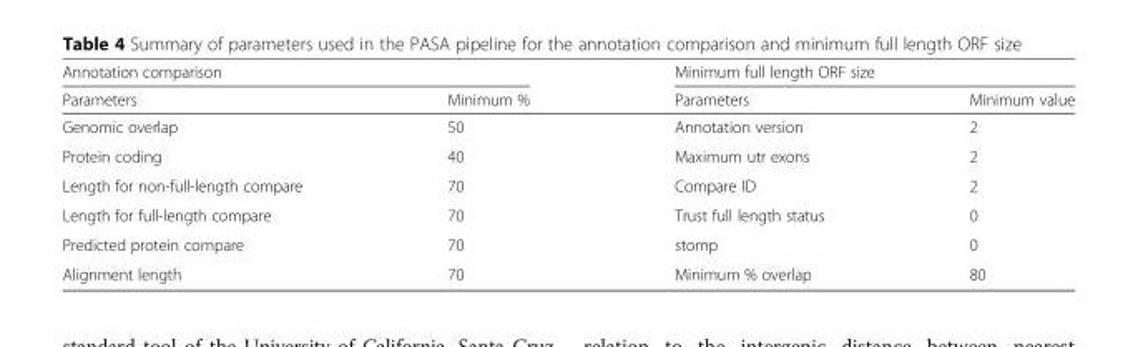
<table><thead><tr><td colspan="2">Annotation comparison</td><td colspan="2">Minimum full length ORF size</td></tr><tr><td>Parameters</td><td>Minimum %</td><td>Parameters</td><td>Minimum value</td></tr></thead><tbody><tr><td>Genomic overlap</td><td>50</td><td>Annotation version</td><td>2</td></tr><tr><td>Protein coding</td><td>40</td><td>Maximum utr exons</td><td>2</td></tr><tr><td>Length for non-full-length compare</td><td>70</td><td>Compare ID</td><td>2</td></tr><tr><td>Length for full-length compare</td><td>70</td><td>Trust full length status</td><td>0</td></tr><tr><td>Predicted protein compare</td><td>70</td><td>stomp</td><td>0</td></tr><tr><td>Alignment length</td><td>70</td><td>Minimum % overlap</td><td>80</td></tr></tbody></table>